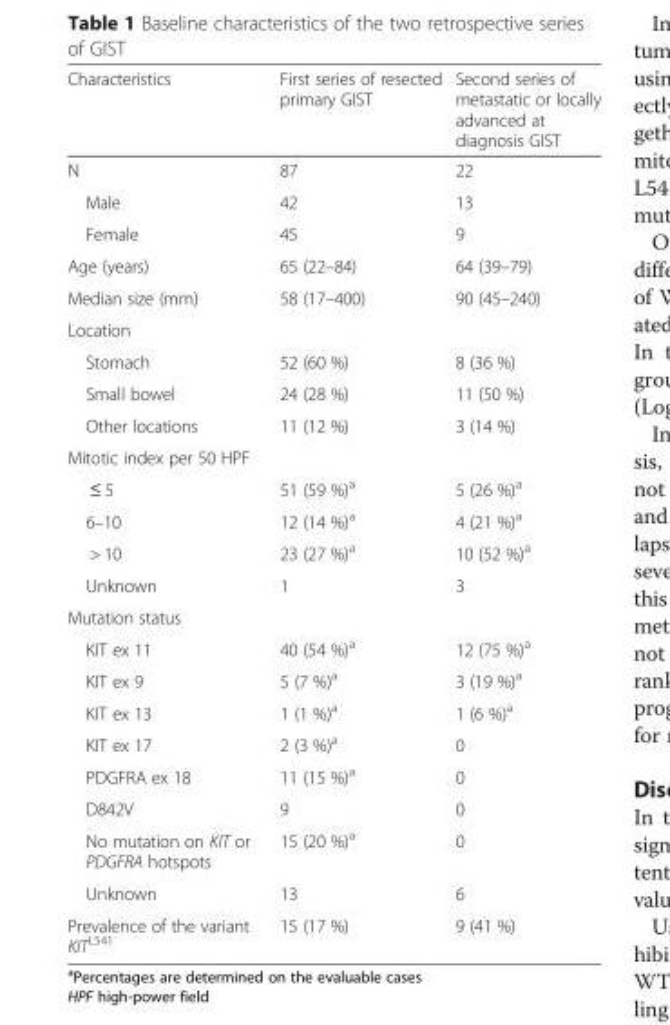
<table><thead><tr><td>Characteristics</td><td>First series of resected primary GIST</td><td>Second series of metastatic or locally advanced at diagnosis GIST</td></tr></thead><tbody><tr><td>N</td><td>87</td><td>22</td></tr><tr><td>Male</td><td>42</td><td>13</td></tr><tr><td>Female</td><td>45</td><td>9</td></tr><tr><td>Age (years)</td><td>65 (22–84)</td><td>64 (39–79)</td></tr><tr><td>Median size (mm)</td><td>58 (17–400)</td><td>90 (45–240)</td></tr><tr><td colspan="3">Location</td></tr><tr><td>Stomach</td><td>52 (60 %)</td><td>8 (36 %)</td></tr><tr><td>Small bowel</td><td>24 (28 %)</td><td>11 (50 %)</td></tr><tr><td>Other locations</td><td>11 (12 %)</td><td>3 (14 %)</td></tr><tr><td colspan="3">Mitotic index per 50 HPF</td></tr><tr><td>≤ 5</td><td>51 (59 %)<sup>a</sup></td><td>5 (26 %)<sup>a</sup></td></tr><tr><td>6–10</td><td>12 (14 %)<sup>a</sup></td><td>4 (21 %)<sup>a</sup></td></tr><tr><td>&gt; 10</td><td>23 (27 %)<sup>a</sup></td><td>10 (52 %)<sup>a</sup></td></tr><tr><td>Unknown</td><td>1</td><td>3</td></tr><tr><td colspan="3">Mutation status</td></tr><tr><td>KIT ex 11</td><td>40 (54 %)<sup>a</sup></td><td>12 (75 %)<sup>a</sup></td></tr><tr><td>KIT ex 9</td><td>5 (7 %)<sup>a</sup></td><td>3 (19 %)<sup>a</sup></td></tr><tr><td>KIT ex 13</td><td>1 (1 %)<sup>a</sup></td><td>1 (6 %)<sup>a</sup></td></tr><tr><td>KIT ex 17</td><td>2 (3 %)<sup>a</sup></td><td>0</td></tr><tr><td>PDGFRA ex 18</td><td>11 (15 %)<sup>a</sup></td><td>0</td></tr><tr><td>D842V</td><td>9</td><td>0</td></tr><tr><td>No mutation on KIT or PDGFRA hotspots</td><td>15 (20 %)<sup>a</sup></td><td>0</td></tr><tr><td>Unknown</td><td>13</td><td>6</td></tr><tr><td>Prevalence of the variant KIT<sup>L541</sup></td><td>15 (17 %)</td><td>9 (41 %)</td></tr></tbody></table>